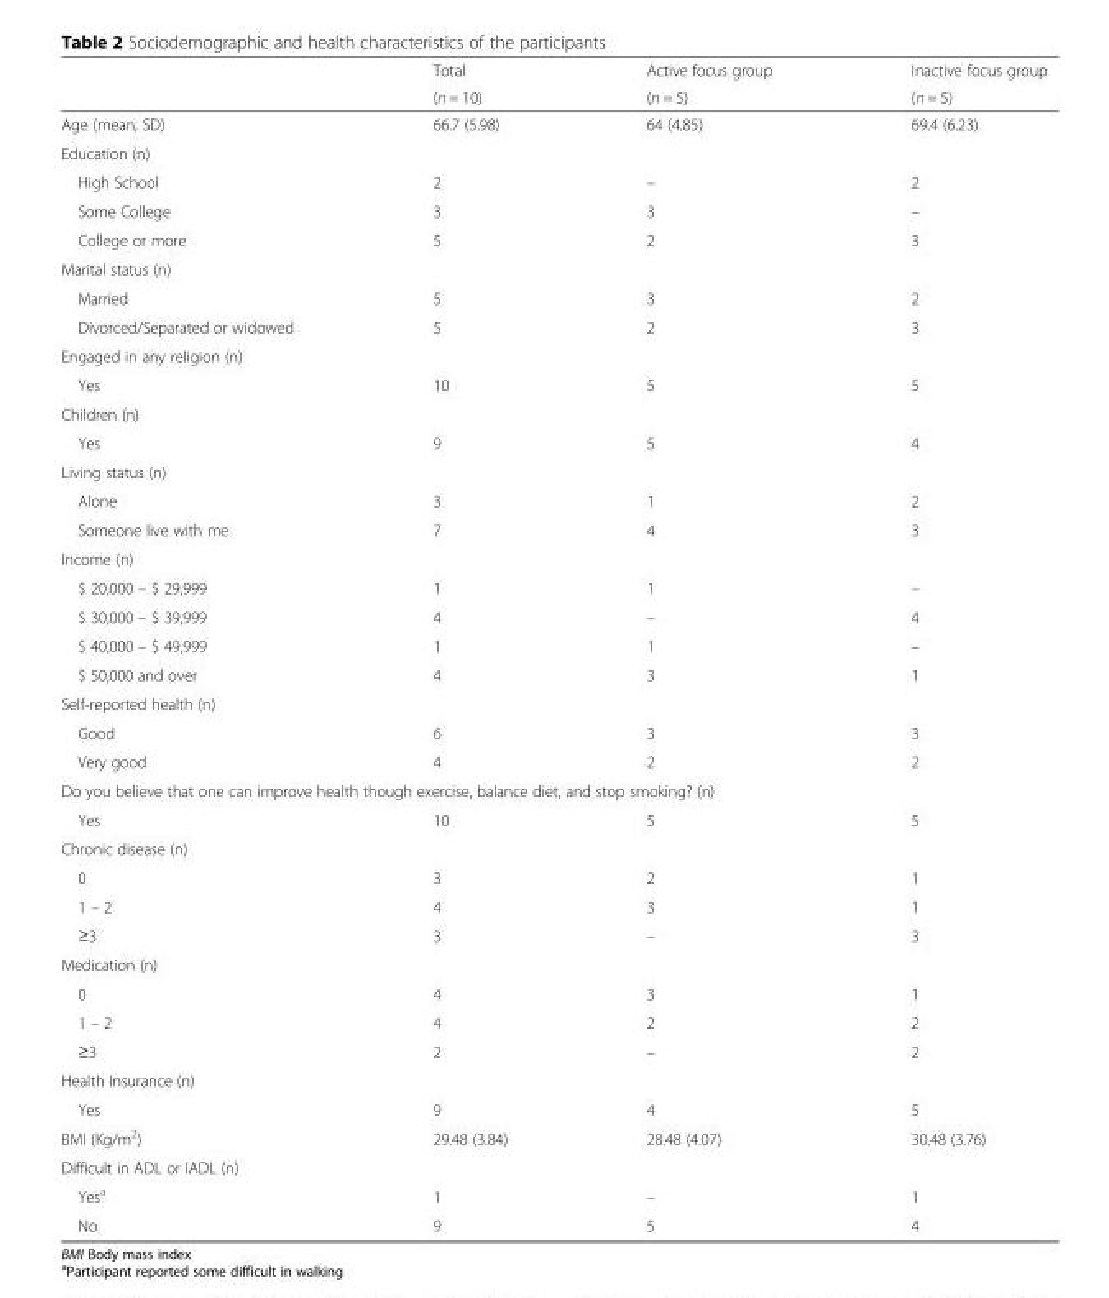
<table><thead><tr><td rowspan="2"></td><td rowspan="2">Total (n = 10)</td><td rowspan="2">Active focus group (n = 5)</td><td rowspan="2">Inactive focus group (n = 5)</td></tr><tr></tr></thead><tbody><tr><td>Age (mean, SD)</td><td>66.7 (5.98)</td><td>64 (4.85)</td><td>69.4 (6.23)</td></tr><tr><td colspan="4">Education (n)</td></tr><tr><td>High School</td><td>2</td><td>–</td><td>2</td></tr><tr><td>Some College</td><td>3</td><td>3</td><td>–</td></tr><tr><td>College or more</td><td>5</td><td>2</td><td>3</td></tr><tr><td colspan="4">Marital status (n)</td></tr><tr><td>Married</td><td>5</td><td>3</td><td>2</td></tr><tr><td>Divorced/Separated or widowed</td><td>5</td><td>2</td><td>3</td></tr><tr><td colspan="4">Engaged in any religion (n)</td></tr><tr><td>Yes</td><td>10</td><td>5</td><td>5</td></tr><tr><td colspan="4">Children (n)</td></tr><tr><td>Yes</td><td>9</td><td>5</td><td>4</td></tr><tr><td colspan="4">Living status (n)</td></tr><tr><td>Alone</td><td>3</td><td>1</td><td>2</td></tr><tr><td>Someone live with me</td><td>7</td><td>4</td><td>3</td></tr><tr><td colspan="4">Income (n)</td></tr><tr><td>$ 20,000 – $ 29,999</td><td>1</td><td>1</td><td>–</td></tr><tr><td>$ 30,000 – $ 39,999</td><td>4</td><td>–</td><td>4</td></tr><tr><td>$ 40,000 – $ 49,999</td><td>1</td><td>1</td><td>–</td></tr><tr><td>$ 50,000 and over</td><td>4</td><td>3</td><td>1</td></tr><tr><td colspan="4">Self-reported health (n)</td></tr><tr><td>Good</td><td>6</td><td>3</td><td>3</td></tr><tr><td>Very good</td><td>4</td><td>2</td><td>2</td></tr><tr><td colspan="4">Do you believe that one can improve health though exercise, balance diet, and stop smoking? (n)</td></tr><tr><td>Yes</td><td>10</td><td>5</td><td>5</td></tr><tr><td colspan="4">Chronic disease (n)</td></tr><tr><td>0</td><td>3</td><td>2</td><td>1</td></tr><tr><td>1 – 2</td><td>4</td><td>3</td><td>1</td></tr><tr><td>≥3</td><td>3</td><td>–</td><td>3</td></tr><tr><td colspan="4">Medication (n)</td></tr><tr><td>0</td><td>4</td><td>3</td><td>1</td></tr><tr><td>1 – 2</td><td>4</td><td>2</td><td>2</td></tr><tr><td>≥3</td><td>2</td><td>–</td><td>2</td></tr><tr><td colspan="4">Health Insurance (n)</td></tr><tr><td>Yes</td><td>9</td><td>4</td><td>5</td></tr><tr><td>BMI (Kg/m<sup>2</sup>)</td><td>29.48 (3.84)</td><td>28.48 (4.07)</td><td>30.48 (3.76)</td></tr><tr><td colspan="4">Difficult in ADL or IADL (n)</td></tr><tr><td>Yes<sup>a</sup></td><td>1</td><td>–</td><td>1</td></tr><tr><td>No</td><td>9</td><td>5</td><td>4</td></tr></tbody></table>